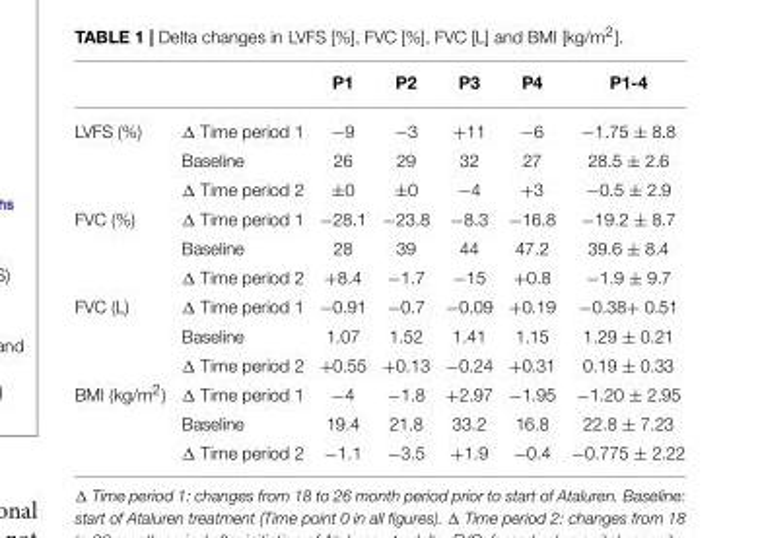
<table><thead><tr><td></td><td></td><td>P1</td><td>P2</td><td>P3</td><td>P4</td><td>P1-4</td></tr></thead><tbody><tr><td rowspan="3">LVFS (%)</td><td>Δ Time period 1</td><td>−9</td><td>−3</td><td>+11</td><td>−6</td><td>−1.75 ± 8.8</td></tr><tr><td>Baseline</td><td>26</td><td>29</td><td>32</td><td>27</td><td>28.5 ± 2.6</td></tr><tr><td>Δ Time period 2</td><td>±0</td><td>±0</td><td>−4</td><td>+3</td><td>−0.5 ± 2.9</td></tr><tr><td rowspan="3">FVC (%)</td><td>Δ Time period 1</td><td>−28.1</td><td>−23.8</td><td>−8.3</td><td>−16.8</td><td>−19.2 ± 8.7</td></tr><tr><td>Baseline</td><td>28</td><td>39</td><td>44</td><td>47.2</td><td>39.6 ± 8.4</td></tr><tr><td>Δ Time period 2</td><td>+8.4</td><td>−1.7</td><td>−15</td><td>+0.8</td><td>−1.9 ± 9.7</td></tr><tr><td rowspan="3">FVC (L)</td><td>Δ Time period 1</td><td>−0.91</td><td>−0.7</td><td>−0.09</td><td>+0.19</td><td>−0.38+ 0.51</td></tr><tr><td>Baseline</td><td>1.07</td><td>1.52</td><td>1.41</td><td>1.15</td><td>1.29 ± 0.21</td></tr><tr><td>Δ Time period 2</td><td>+0.55</td><td>+0.13</td><td>−0.24</td><td>+0.31</td><td>0.19 ± 0.33</td></tr><tr><td rowspan="3">BMI (kg/m<sup>2</sup>)</td><td>Δ Time period 1</td><td>−4</td><td>−1.8</td><td>+2.97</td><td>−1.95</td><td>−1.20 ± 2.95</td></tr><tr><td>Baseline</td><td>19.4</td><td>21.8</td><td>33.2</td><td>16.8</td><td>22.8 ± 7.23</td></tr><tr><td>Δ Time period 2</td><td>−1.1</td><td>−3.5</td><td>+1.9</td><td>−0.4</td><td>−0.775 ± 2.22</td></tr></tbody></table>